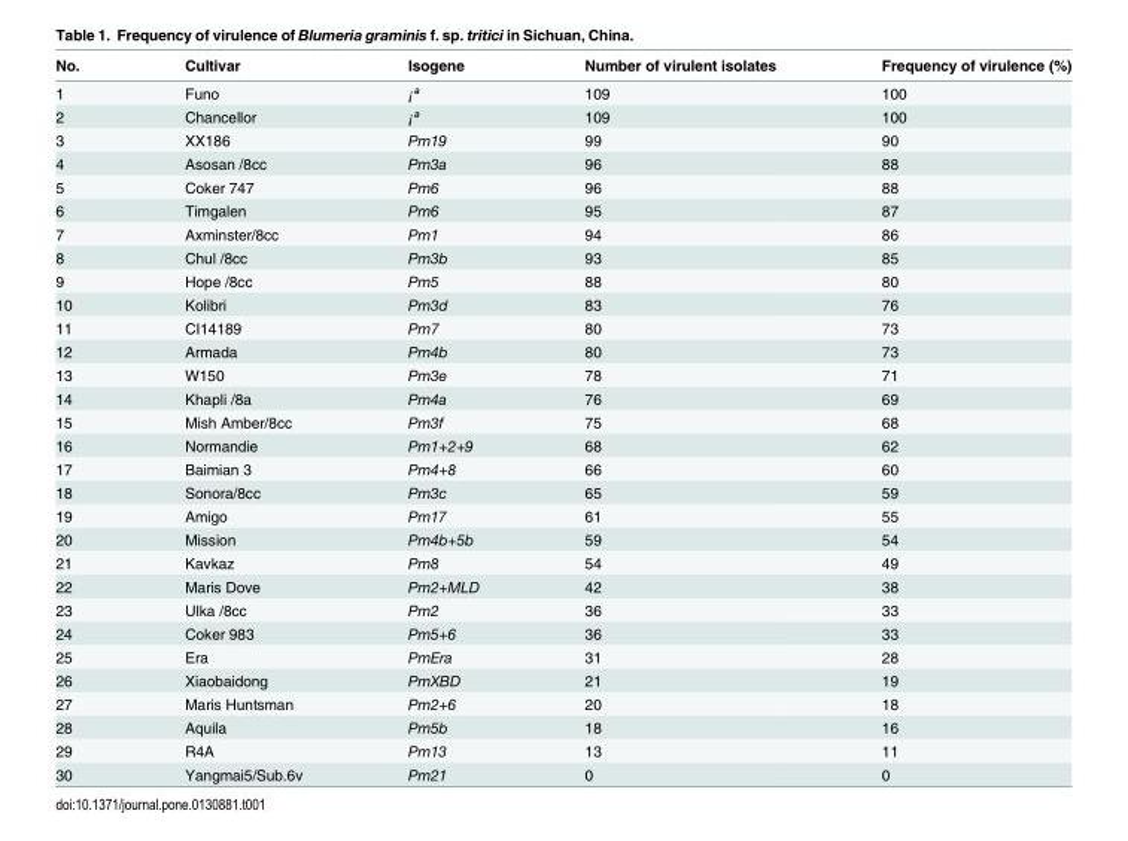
<table><thead><tr><td>No.</td><td>Cultivar</td><td>Isogene</td><td>Number of virulent isolates</td><td>Frequency of virulence (%)</td></tr></thead><tbody><tr><td>1</td><td>Funo</td><td>¡ª</td><td>109</td><td>100</td></tr><tr><td>2</td><td>Chancellor</td><td>¡ª</td><td>109</td><td>100</td></tr><tr><td>3</td><td>XX186</td><td>Pm19</td><td>99</td><td>90</td></tr><tr><td>4</td><td>Asosan /8cc</td><td>Pm3a</td><td>96</td><td>88</td></tr><tr><td>5</td><td>Coker 747</td><td>Pm6</td><td>96</td><td>88</td></tr><tr><td>6</td><td>Timgalen</td><td>Pm6</td><td>95</td><td>87</td></tr><tr><td>7</td><td>Axminster/8cc</td><td>Pm1</td><td>94</td><td>86</td></tr><tr><td>8</td><td>Chul /8cc</td><td>Pm3b</td><td>93</td><td>85</td></tr><tr><td>9</td><td>Hope /8cc</td><td>Pm5</td><td>88</td><td>80</td></tr><tr><td>10</td><td>Kolibri</td><td>Pm3d</td><td>83</td><td>76</td></tr><tr><td>11</td><td>CI14189</td><td>Pm7</td><td>80</td><td>73</td></tr><tr><td>12</td><td>Armada</td><td>Pm4b</td><td>80</td><td>73</td></tr><tr><td>13</td><td>W150</td><td>Pm3e</td><td>78</td><td>71</td></tr><tr><td>14</td><td>Khapli /8a</td><td>Pm4a</td><td>76</td><td>69</td></tr><tr><td>15</td><td>Mish Amber/8cc</td><td>Pm3f</td><td>75</td><td>68</td></tr><tr><td>16</td><td>Normandie</td><td>Pm1+2+9</td><td>68</td><td>62</td></tr><tr><td>17</td><td>Baimian 3</td><td>Pm4+8</td><td>66</td><td>60</td></tr><tr><td>18</td><td>Sonora/8cc</td><td>Pm3c</td><td>65</td><td>59</td></tr><tr><td>19</td><td>Amigo</td><td>Pm17</td><td>61</td><td>55</td></tr><tr><td>20</td><td>Mission</td><td>Pm4b+5b</td><td>59</td><td>54</td></tr><tr><td>21</td><td>Kavkaz</td><td>Pm8</td><td>54</td><td>49</td></tr><tr><td>22</td><td>Maris Dove</td><td>Pm2+MLD</td><td>42</td><td>38</td></tr><tr><td>23</td><td>Ulka /8cc</td><td>Pm2</td><td>36</td><td>33</td></tr><tr><td>24</td><td>Coker 983</td><td>Pm5+6</td><td>36</td><td>33</td></tr><tr><td>25</td><td>Era</td><td>PmEra</td><td>31</td><td>28</td></tr><tr><td>26</td><td>Xiaobaidong</td><td>PmXBD</td><td>21</td><td>19</td></tr><tr><td>27</td><td>Maris Huntsman</td><td>Pm2+6</td><td>20</td><td>18</td></tr><tr><td>28</td><td>Aquila</td><td>Pm5b</td><td>18</td><td>16</td></tr><tr><td>29</td><td>R4A</td><td>Pm13</td><td>13</td><td>11</td></tr><tr><td>30</td><td>Yangmai5/Sub.6v</td><td>Pm21</td><td>0</td><td>0</td></tr></tbody></table>